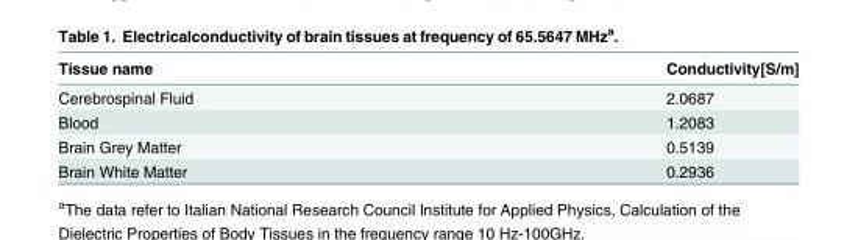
<table><thead><tr><td>Tissue name</td><td>Conductivity[S/m]</td></tr></thead><tbody><tr><td>Cerebrospinal Fluid</td><td>2.0687</td></tr><tr><td>Blood</td><td>1.2083</td></tr><tr><td>Brain Grey Matter</td><td>0.5139</td></tr><tr><td>Brain White Matter</td><td>0.2936</td></tr></tbody></table>